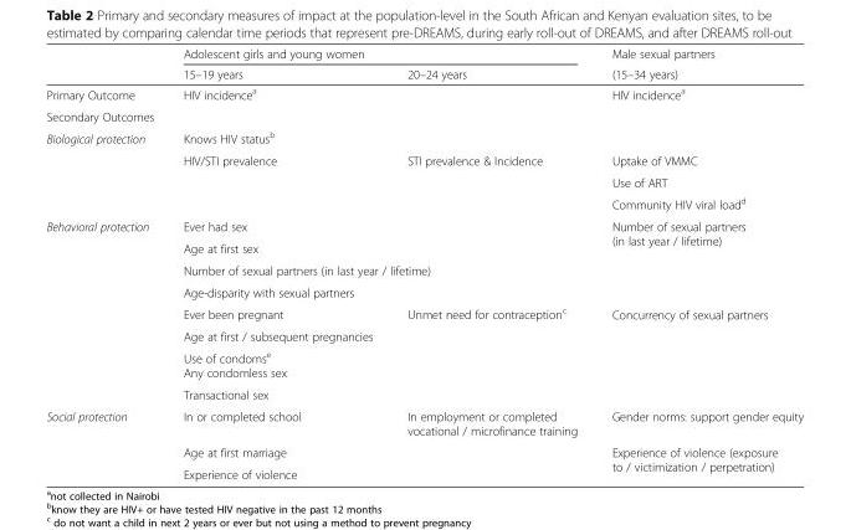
<table><thead><tr><td rowspan="2"></td><td colspan="2">Adolescent girls and young women</td><td rowspan="2">Male sexual partners (15–34 years)</td></tr><tr><td>15–19 years</td><td>20–24 years</td></tr></thead><tbody><tr><td>Primary Outcome</td><td colspan="2">HIV incidence<sup>a</sup></td><td>HIV incidence<sup>a</sup></td></tr><tr><td colspan="4">Secondary Outcomes</td></tr><tr><td rowspan="4">Biological protection</td><td colspan="3">Knows HIV status<sup>b</sup></td></tr><tr><td rowspan="3">HIV/STI prevalence</td><td rowspan="3">STI prevalence &amp; Incidence</td><td>Uptake of VMMC</td></tr><tr><td>Use of ART</td></tr><tr><td>Community HIV viral load<sup>d</sup></td></tr><tr><td rowspan="8">Behavioral protection</td><td colspan="2">Ever had sex</td><td rowspan="3">Number of sexual partners (in last year / lifetime)</td></tr><tr><td colspan="2">Age at first sex</td></tr><tr><td colspan="2">Number of sexual partners (in last year / lifetime)</td></tr><tr><td colspan="3">Age-disparity with sexual partners</td></tr><tr><td>Ever been pregnant</td><td rowspan="2">Unmet need for contraception<sup>c</sup></td><td rowspan="2">Concurrency of sexual partners</td></tr><tr><td>Age at first / subsequent pregnancies</td></tr><tr><td colspan="3">Use of condoms<sup>e</sup> Any condomless sex</td></tr><tr><td colspan="3">Transactional sex</td></tr><tr><td rowspan="3">Social protection</td><td>In or completed school</td><td>In employment or completed vocational / microfinance training</td><td>Gender norms: support gender equity</td></tr><tr><td colspan="2">Age at first marriage</td><td rowspan="2">Experience of violence (exposure to / victimization / perpetration)</td></tr><tr><td colspan="2">Experience of violence</td></tr></tbody></table>